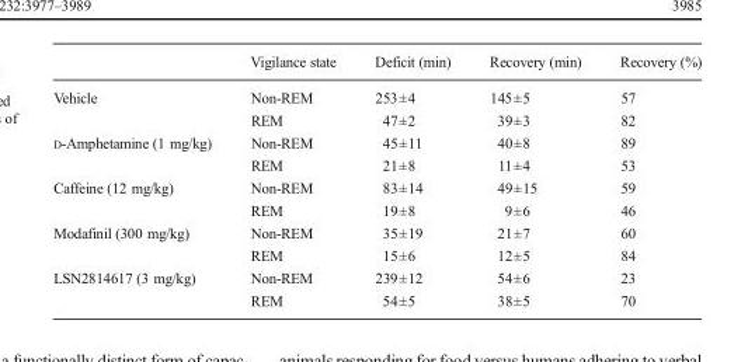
<table><thead><tr><td></td><td>Vigilance state</td><td>Deficit (min)</td><td>Recovery (min)</td><td>Recovery (%)</td></tr></thead><tbody><tr><td rowspan="2">Vehicle</td><td>Non-REM</td><td>253±4</td><td>145±5</td><td>57</td></tr><tr><td>REM</td><td>47±2</td><td>39±3</td><td>82</td></tr><tr><td rowspan="2">D-Amphetamine (1 mg/kg)</td><td>Non-REM</td><td>45±11</td><td>40±8</td><td>89</td></tr><tr><td>REM</td><td>21±8</td><td>11±4</td><td>53</td></tr><tr><td rowspan="2">Caffeine (12 mg/kg)</td><td>Non-REM</td><td>83±14</td><td>49±15</td><td>59</td></tr><tr><td>REM</td><td>19±8</td><td>9±6</td><td>46</td></tr><tr><td rowspan="2">Modafinil (300 mg/kg)</td><td>Non-REM</td><td>35±19</td><td>21±7</td><td>60</td></tr><tr><td>REM</td><td>15±6</td><td>12±5</td><td>84</td></tr><tr><td rowspan="2">LSN2814617 (3 mg/kg)</td><td>Non-REM</td><td>239±12</td><td>54±6</td><td>23</td></tr><tr><td>REM</td><td>54±5</td><td>38±5</td><td>70</td></tr></tbody></table>